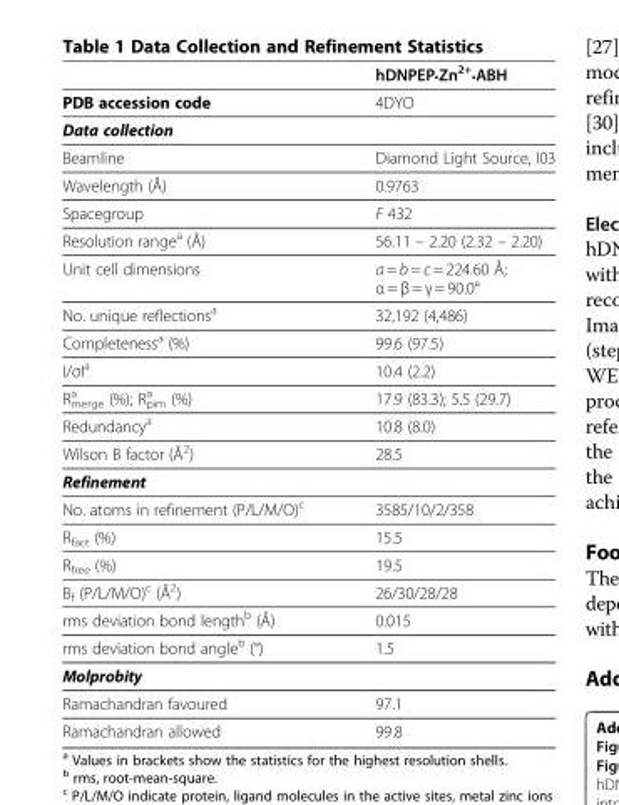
<table><thead><tr><td></td><td>hDNPEP•Zn2+•ABH</td></tr></thead><tbody><tr><td>PDB accession code</td><td>4DYO</td></tr><tr><td colspan="2">Data collection</td></tr><tr><td>Beamline</td><td>Diamond Light Source, I03</td></tr><tr><td>Wavelength (Å)</td><td>0.9763</td></tr><tr><td>Spacegroup</td><td>F 432</td></tr><tr><td>Resolution range<sup>a</sup> (Å)</td><td>56.11 – 2.20 (2.32 – 2.20)</td></tr><tr><td>Unit cell dimensions</td><td>a = b = c = 224.60 Å; α = β = γ = 90.0°</td></tr><tr><td>No. unique reflections<sup>a</sup></td><td>32,192 (4,486)</td></tr><tr><td>Completeness<sup>a</sup> (%)</td><td>99.6 (97.5)</td></tr><tr><td>I/σI<sup>a</sup></td><td>10.4 (2.2)</td></tr><tr><td>R<sub>merge</sub> <sup>a</sup> (%); R<sub>pim</sub> <sup>a</sup> (%)</td><td>17.9 (83.3); 5.5 (29.7)</td></tr><tr><td>Redundancy<sup>a</sup></td><td>10.8 (8.0)</td></tr><tr><td>Wilson B factor (Å<sup>2</sup>)</td><td>28.5</td></tr><tr><td colspan="2">Refinement</td></tr><tr><td>No. atoms in refinement (P/L/M/O)<sup>c</sup></td><td>3585/10/2/358</td></tr><tr><td>R<sub>fact</sub> (%)</td><td>15.5</td></tr><tr><td>R<sub>free</sub> (%)</td><td>19.5</td></tr><tr><td>B<sub>f</sub> (P/L/M/O)<sup>c</sup> (Å<sup>2</sup>)</td><td>26/30/28/28</td></tr><tr><td>rms deviation bond length<sup>b</sup> (Å)</td><td>0.015</td></tr><tr><td>rms deviation bond angle<sup>b</sup> (°)</td><td>1.5</td></tr><tr><td colspan="2">Molprobity</td></tr><tr><td>Ramachandran favoured</td><td>97.1</td></tr><tr><td>Ramachandran allowed</td><td>99.8</td></tr></tbody></table>